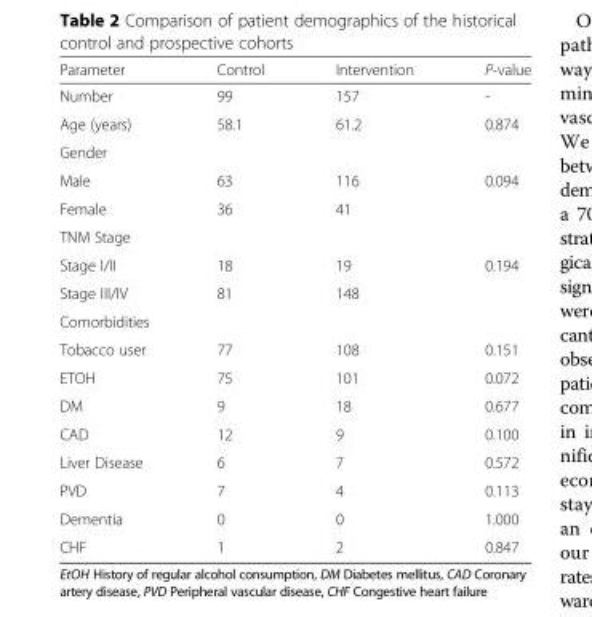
<table><thead><tr><td>Parameter</td><td>Control</td><td>Intervention</td><td>P-value</td></tr></thead><tbody><tr><td>Number</td><td>99</td><td>157</td><td>-</td></tr><tr><td>Age (years)</td><td>58.1</td><td>61.2</td><td>0.874</td></tr><tr><td colspan="4">Gender</td></tr><tr><td>Male</td><td>63</td><td>116</td><td rowspan="2">0.094</td></tr><tr><td>Female</td><td>36</td><td>41</td></tr><tr><td colspan="4">TNM Stage</td></tr><tr><td>Stage I/II</td><td>18</td><td>19</td><td rowspan="2">0.194</td></tr><tr><td>Stage III/IV</td><td>81</td><td>148</td></tr><tr><td colspan="4">Comorbidities</td></tr><tr><td>Tobacco user</td><td>77</td><td>108</td><td>0.151</td></tr><tr><td>ETOH</td><td>75</td><td>101</td><td>0.072</td></tr><tr><td>DM</td><td>9</td><td>18</td><td>0.677</td></tr><tr><td>CAD</td><td>12</td><td>9</td><td>0.100</td></tr><tr><td>Liver Disease</td><td>6</td><td>7</td><td>0.572</td></tr><tr><td>PVD</td><td>7</td><td>4</td><td>0.113</td></tr><tr><td>Dementia</td><td>0</td><td>0</td><td>1.000</td></tr><tr><td>CHF</td><td>1</td><td>2</td><td>0.847</td></tr></tbody></table>